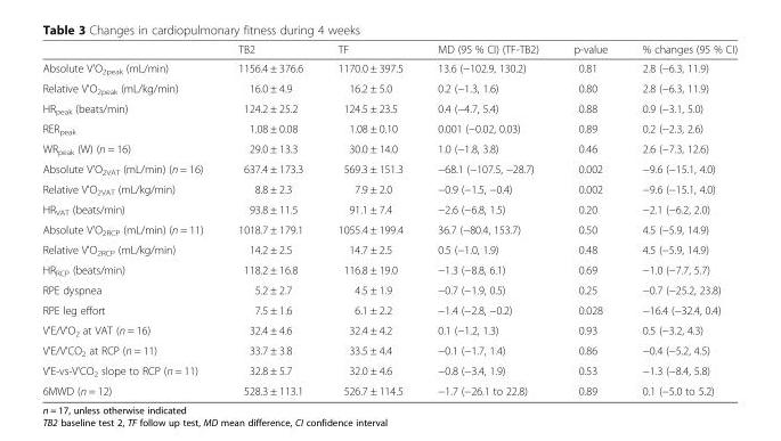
<table><thead><tr><td></td><td>TB2</td><td>TF</td><td>MD (95 % CI) (TF-TB2)</td><td>p-value</td><td>% changes (95 % CI)</td></tr></thead><tbody><tr><td>Absolute V&#x27;O<sub>2peak</sub> (mL/min)</td><td>1156.4 ± 376.6</td><td>1170.0 ± 397.5</td><td>13.6 (−102.9, 130.2)</td><td>0.81</td><td>2.8 (−6.3, 11.9)</td></tr><tr><td>Relative V&#x27;O<sub>2peak</sub> (mL/kg/min)</td><td>16.0 ± 4.9</td><td>16.2 ± 5.0</td><td>0.2 (−1.3, 1.6)</td><td>0.80</td><td>2.8 (−6.3, 11.9)</td></tr><tr><td>HR<sub>peak</sub> (beats/min)</td><td>124.2 ± 25.2</td><td>124.5 ± 23.5</td><td>0.4 (−4.7, 5.4)</td><td>0.88</td><td>0.9 (−3.1, 5.0)</td></tr><tr><td>RER<sub>peak</sub></td><td>1.08 ± 0.08</td><td>1.08 ± 0.10</td><td>0.001 (−0.02, 0.03)</td><td>0.89</td><td>0.2 (−2.3, 2.6)</td></tr><tr><td>WR<sub>peak</sub> (W) (n = 16)</td><td>29.0 ± 13.3</td><td>30.0 ± 14.0</td><td>1.0 (−1.8, 3.8)</td><td>0.46</td><td>2.6 (−7.3, 12.6)</td></tr><tr><td>Absolute V&#x27;O<sub>2VAT</sub> (mL/min) (n = 16)</td><td>637.4 ± 173.3</td><td>569.3 ± 151.3</td><td>−68.1 (−107.5, −28.7)</td><td>0.002</td><td>−9.6 (−15.1, 4.0)</td></tr><tr><td>Relative V&#x27;O<sub>2VAT</sub> (mL/kg/min)</td><td>8.8 ± 2.3</td><td>7.9 ± 2.0</td><td>−0.9 (−1.5, −0.4)</td><td>0.002</td><td>−9.6 (−15.1, 4.0)</td></tr><tr><td>HR<sub>VAT</sub> (beats/min)</td><td>93.8 ± 11.5</td><td>91.1 ± 7.4</td><td>−2.6 (−6.8, 1.5)</td><td>0.20</td><td>−2.1 (−6.2, 2.0)</td></tr><tr><td>Absolute V&#x27;O<sub>2RCP</sub> (mL/min) (n = 11)</td><td>1018.7 ± 179.1</td><td>1055.4 ± 199.4</td><td>36.7 (−80.4, 153.7)</td><td>0.50</td><td>4.5 (−5.9, 14.9)</td></tr><tr><td>Relative V&#x27;O<sub>2RCP</sub> (mL/kg/min)</td><td>14.2 ± 2.5</td><td>14.7 ± 2.5</td><td>0.5 (−1.0, 1.9)</td><td>0.48</td><td>4.5 (−5.9, 14.9)</td></tr><tr><td>HR<sub>RCP</sub> (beats/min)</td><td>118.2 ± 16.8</td><td>116.8 ± 19.0</td><td>−1.3 (−8.8, 6.1)</td><td>0.69</td><td>−1.0 (−7.7, 5.7)</td></tr><tr><td>RPE dyspnea</td><td>5.2 ± 2.7</td><td>4.5 ± 1.9</td><td>−0.7 (−1.9, 0.5)</td><td>0.25</td><td>−0.7 (−25.2, 23.8)</td></tr><tr><td>RPE leg effort</td><td>7.5 ± 1.6</td><td>6.1 ± 2.2</td><td>−1.4 (−2.8, −0.2)</td><td>0.028</td><td>−16.4 (−32.4, 0.4)</td></tr><tr><td>V&#x27;E/V&#x27;O<sub>2</sub> at VAT (n = 16)</td><td>32.4 ± 4.6</td><td>32.4 ± 4.2</td><td>0.1 (−1.2, 1.3)</td><td>0.93</td><td>0.5 (−3.2, 4.3)</td></tr><tr><td>V&#x27;E/V&#x27;CO<sub>2</sub> at RCP (n = 11)</td><td>33.7 ± 3.8</td><td>33.5 ± 4.4</td><td>−0.1 (−1.7, 1.4)</td><td>0.86</td><td>−0.4 (−5.2, 4.5)</td></tr><tr><td>V&#x27;E-vs-V&#x27;CO<sub>2</sub> slope to RCP (n = 11)</td><td>32.8 ± 5.7</td><td>32.0 ± 4.6</td><td>−0.8 (−3.4, 1.9)</td><td>0.53</td><td>−1.3 (−8.4, 5.8)</td></tr><tr><td>6MWD (n = 12)</td><td>528.3 ± 113.1</td><td>526.7 ± 114.5</td><td>−1.7 (−26.1 to 22.8)</td><td>0.89</td><td>0.1 (−5.0 to 5.2)</td></tr></tbody></table>